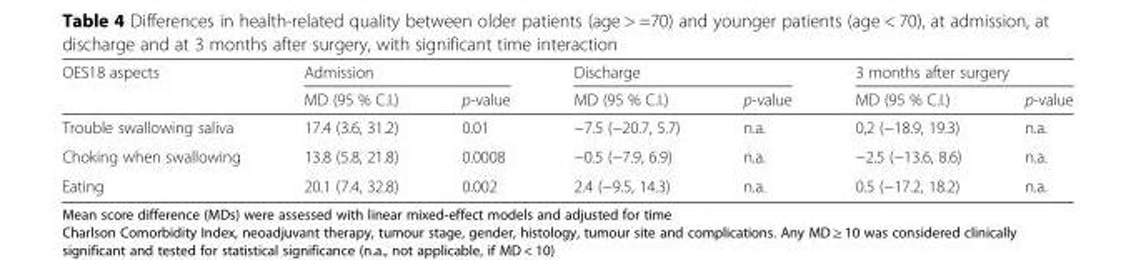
<table><thead><tr><td rowspan="2">OES18 aspects</td><td colspan="2">Admission</td><td colspan="2">Discharge</td><td colspan="2">3 months after surgery</td></tr><tr><td>MD (95 % C.I.)</td><td>p-value</td><td>MD (95 % C.I.)</td><td>p-value</td><td>MD (95 % C.I.)</td><td>p-value</td></tr></thead><tbody><tr><td>Trouble swallowing saliva</td><td>17.4 (3.6, 31.2)</td><td>0.01</td><td>−7.5 (−20.7, 5.7)</td><td>n.a.</td><td>0,2 (−18.9, 19.3)</td><td>n.a.</td></tr><tr><td>Choking when swallowing</td><td>13.8 (5.8, 21.8)</td><td>0.0008</td><td>−0.5 (−7.9, 6.9)</td><td>n.a.</td><td>−2.5 (−13.6, 8.6)</td><td>n.a.</td></tr><tr><td>Eating</td><td>20.1 (7.4, 32.8)</td><td>0.002</td><td>2.4 (−9.5, 14.3)</td><td>n.a.</td><td>0.5 (−17.2, 18.2)</td><td>n.a.</td></tr></tbody></table>